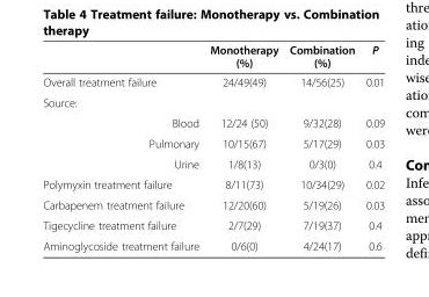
<table><thead><tr><td></td><td>Monotherapy (%)</td><td>Combination (%)</td><td>P</td></tr></thead><tbody><tr><td>Overall treatment failure</td><td>24/49(49)</td><td>14/56(25)</td><td>0.01</td></tr><tr><td colspan="4">Source:</td></tr><tr><td>Blood</td><td>12/24 (50)</td><td>9/32(28)</td><td>0.09</td></tr><tr><td>Pulmonary</td><td>10/15(67)</td><td>5/17(29)</td><td>0.03</td></tr><tr><td>Urine</td><td>1/8(13)</td><td>0/3(0)</td><td>0.4</td></tr><tr><td>Polymyxin treatment failure</td><td>8/11(73)</td><td>10/34(29)</td><td>0.02</td></tr><tr><td>Carbapenem treatment failure</td><td>12/20(60)</td><td>5/19(26)</td><td>0.03</td></tr><tr><td>Tigecycline treatment failure</td><td>2/7(29)</td><td>7/19(37)</td><td>0.4</td></tr><tr><td>Aminoglycoside treatment failure</td><td>0/6(0)</td><td>4/24(17)</td><td>0.6</td></tr></tbody></table>